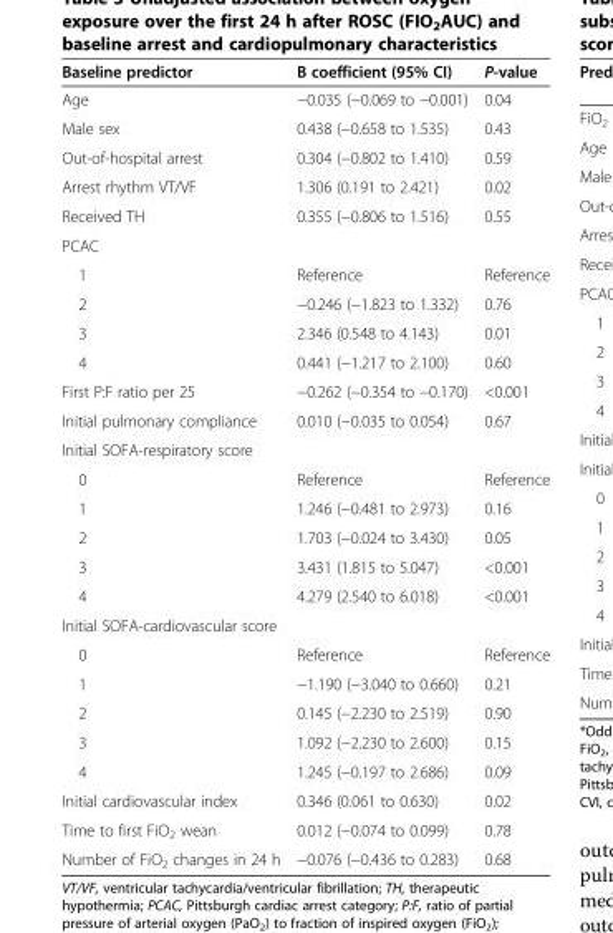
<table><thead><tr><td>Baseline predictor</td><td>B coefficient (95% CI)</td><td>P-value</td></tr></thead><tbody><tr><td>Age</td><td>−0.035 (−0.069 to −0.001)</td><td>0.04</td></tr><tr><td>Male sex</td><td>0.438 (−0.658 to 1.535)</td><td>0.43</td></tr><tr><td>Out-of-hospital arrest</td><td>0.304 (−0.802 to 1.410)</td><td>0.59</td></tr><tr><td>Arrest rhythm VT/VF</td><td>1.306 (0.191 to 2.421)</td><td>0.02</td></tr><tr><td>Received TH</td><td>0.355 (−0.806 to 1.516)</td><td>0.55</td></tr><tr><td colspan="3">PCAC</td></tr><tr><td>1</td><td>Reference</td><td>Reference</td></tr><tr><td>2</td><td>−0.246 (−1.823 to 1.332)</td><td>0.76</td></tr><tr><td>3</td><td>2.346 (0.548 to 4.143)</td><td>0.01</td></tr><tr><td>4</td><td>0.441 (−1.217 to 2.100)</td><td>0.60</td></tr><tr><td>First P:F ratio per 25</td><td>−0.262 (−0.354 to −0.170)</td><td>&lt;0.001</td></tr><tr><td>Initial pulmonary compliance</td><td>0.010 (−0.035 to 0.054)</td><td>0.67</td></tr><tr><td colspan="3">Initial SOFA-respiratory score</td></tr><tr><td>0</td><td>Reference</td><td>Reference</td></tr><tr><td>1</td><td>1.246 (−0.481 to 2.973)</td><td>0.16</td></tr><tr><td>2</td><td>1.703 (−0.024 to 3.430)</td><td>0.05</td></tr><tr><td>3</td><td>3.431 (1.815 to 5.047)</td><td>&lt;0.001</td></tr><tr><td>4</td><td>4.279 (2.540 to 6.018)</td><td>&lt;0.001</td></tr><tr><td colspan="3">Initial SOFA-cardiovascular score</td></tr><tr><td>0</td><td>Reference</td><td>Reference</td></tr><tr><td>1</td><td>−1.190 (−3.040 to 0.660)</td><td>0.21</td></tr><tr><td>2</td><td>0.145 (−2.230 to 2.519)</td><td>0.90</td></tr><tr><td>3</td><td>1.092 (−2.230 to 2.600)</td><td>0.15</td></tr><tr><td>4</td><td>1.245 (−0.197 to 2.686)</td><td>0.09</td></tr><tr><td>Initial cardiovascular index</td><td>0.346 (0.061 to 0.630)</td><td>0.02</td></tr><tr><td>Time to first FiO<sub>2</sub> wean</td><td>0.012 (−0.074 to 0.099)</td><td>0.78</td></tr><tr><td>Number of FiO<sub>2</sub> changes in 24 h</td><td>−0.076 (−0.436 to 0.283)</td><td>0.68</td></tr></tbody></table>